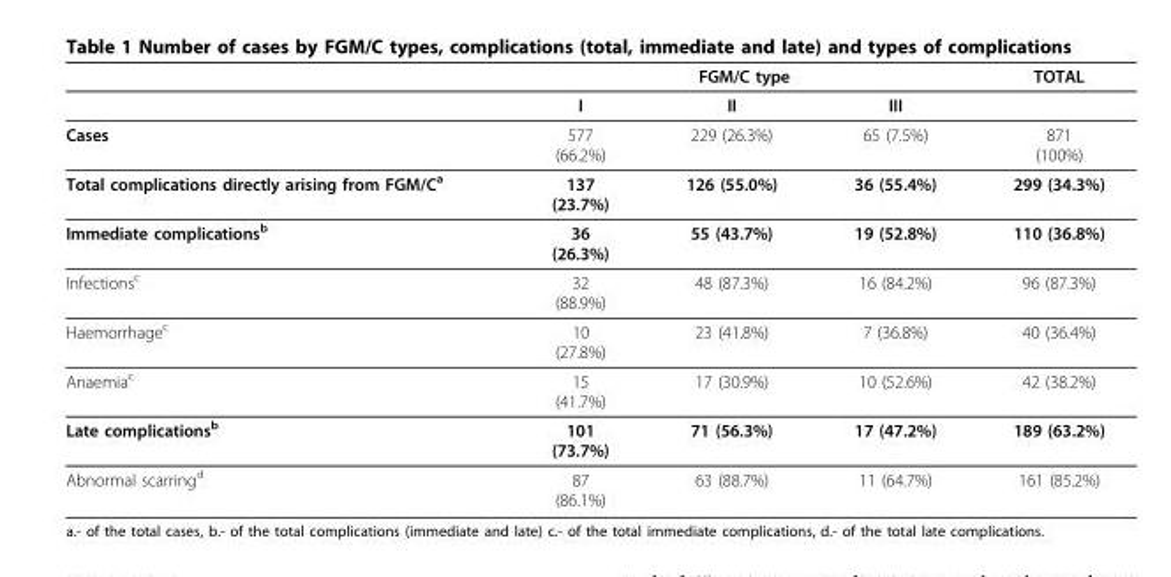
<table><thead><tr><td rowspan="2"></td><td colspan="3">FGM/C type</td><td rowspan="2">TOTAL</td></tr><tr><td>I</td><td>II</td><td>III</td></tr></thead><tbody><tr><td>Cases</td><td>577 (66.2%)</td><td>229 (26.3%)</td><td>65 (7.5%)</td><td>871 (100%)</td></tr><tr><td>Total complications directly arising from FGM/C<sup>a</sup></td><td>137 (23.7%)</td><td>126 (55.0%)</td><td>36 (55.4%)</td><td>299 (34.3%)</td></tr><tr><td>Immediate complications<sup>b</sup></td><td>36 (26.3%)</td><td>55 (43.7%)</td><td>19 (52.8%)</td><td>110 (36.8%)</td></tr><tr><td>Infections<sup>c</sup></td><td>32 (88.9%)</td><td>48 (87.3%)</td><td>16 (84.2%)</td><td>96 (87.3%)</td></tr><tr><td>Haemorrhage<sup>c</sup></td><td>10 (27.8%)</td><td>23 (41.8%)</td><td>7 (36.8%)</td><td>40 (36.4%)</td></tr><tr><td>Anaemia<sup>c</sup></td><td>15 (41.7%)</td><td>17 (30.9%)</td><td>10 (52.6%)</td><td>42 (38.2%)</td></tr><tr><td>Late complications<sup>b</sup></td><td>101 (73.7%)</td><td>71 (56.3%)</td><td>17 (47.2%)</td><td>189 (63.2%)</td></tr><tr><td>Abnormal scarring<sup>d</sup></td><td>87 (86.1%)</td><td>63 (88.7%)</td><td>11 (64.7%)</td><td>161 (85.2%)</td></tr></tbody></table>